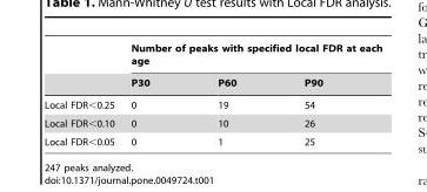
<table><thead><tr><td rowspan="2"></td><td colspan="3">Number of peaks with specified local FDR at each age</td></tr><tr><td>P30</td><td>P60</td><td>P90</td></tr></thead><tbody><tr><td>Local FDR&lt;0.25</td><td>0</td><td>19</td><td>54</td></tr><tr><td>Local FDR&lt;0.10</td><td>0</td><td>10</td><td>26</td></tr><tr><td>Local FDR&lt;0.05</td><td>0</td><td>1</td><td>25</td></tr></tbody></table>